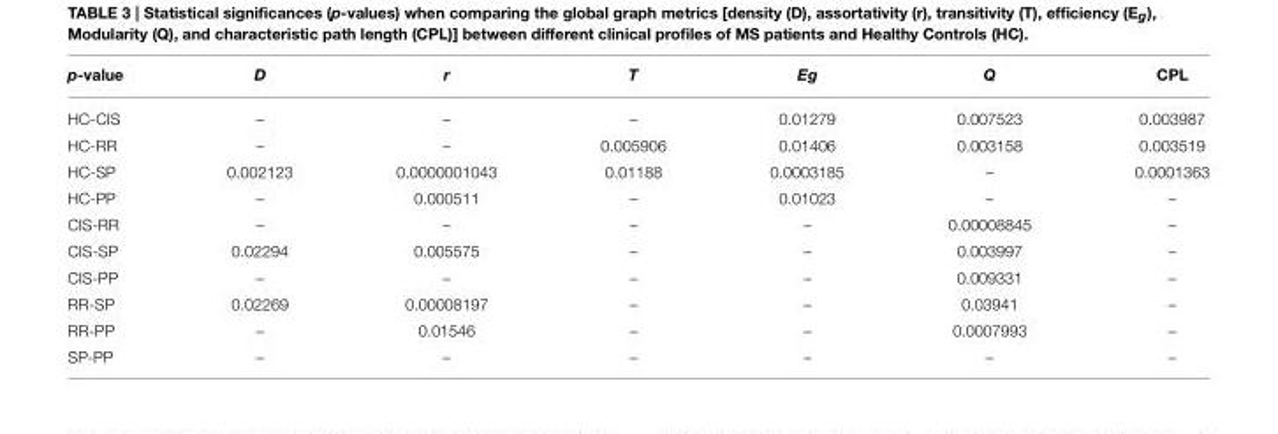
<table><thead><tr><td>p-value</td><td>D</td><td>r</td><td>T</td><td>Eg</td><td>Q</td><td>CPL</td></tr></thead><tbody><tr><td>HC-CIS</td><td>–</td><td>–</td><td>–</td><td>0.01279</td><td>0.007523</td><td>0.003987</td></tr><tr><td>HC-RR</td><td>–</td><td>–</td><td>0.005906</td><td>0.01406</td><td>0.003158</td><td>0.003519</td></tr><tr><td>HC-SP</td><td>0.002123</td><td>0.0000001043</td><td>0.01188</td><td>0.0003185</td><td>–</td><td>0.0001363</td></tr><tr><td>HC-PP</td><td>–</td><td>0.000511</td><td>–</td><td>0.01023</td><td>–</td><td>–</td></tr><tr><td>CIS-RR</td><td>–</td><td>–</td><td>–</td><td>–</td><td>0.00008845</td><td>–</td></tr><tr><td>CIS-SP</td><td>0.02294</td><td>0.005575</td><td>–</td><td>–</td><td>0.003997</td><td>–</td></tr><tr><td>CIS-PP</td><td>–</td><td>–</td><td>–</td><td>–</td><td>0.009331</td><td>–</td></tr><tr><td>RR-SP</td><td>0.02269</td><td>0.00008197</td><td>–</td><td>–</td><td>0.03941</td><td>–</td></tr><tr><td>RR-PP</td><td>–</td><td>0.01546</td><td>–</td><td>–</td><td>0.0007993</td><td>–</td></tr><tr><td>SP-PP</td><td>–</td><td>–</td><td>–</td><td>–</td><td>–</td><td>–</td></tr></tbody></table>